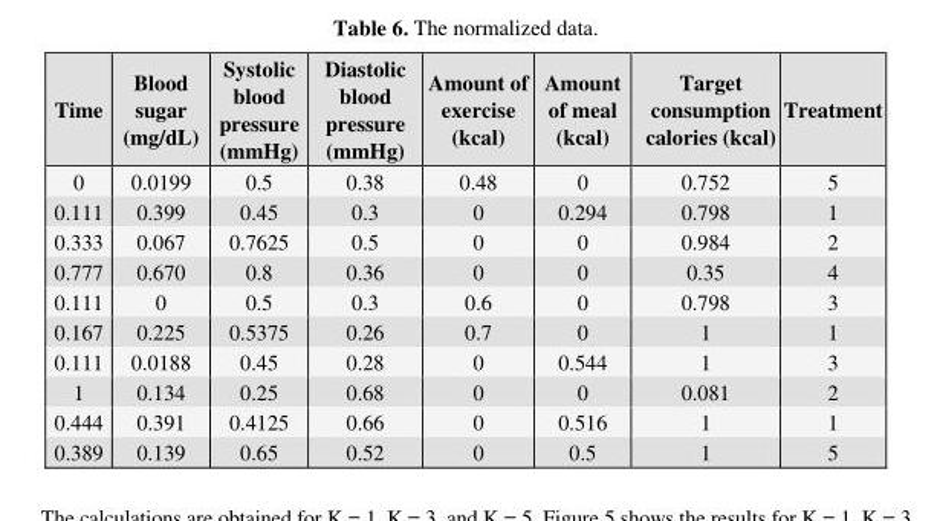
<table><thead><tr><td>Time</td><td>Blood sugar (mg/dL)</td><td>Systolic blood pressure (mmHg)</td><td>Diastolic blood pressure (mmHg)</td><td>Amount of exercise (kcal)</td><td>Amount of meal (kcal)</td><td>Target consumption calories (kcal)</td><td>Treatment</td></tr></thead><tbody><tr><td>0</td><td>0.0199</td><td>0.5</td><td>0.38</td><td>0.48</td><td>0</td><td>0.752</td><td>5</td></tr><tr><td>0.111</td><td>0.399</td><td>0.45</td><td>0.3</td><td>0</td><td>0.294</td><td>0.798</td><td>1</td></tr><tr><td>0.333</td><td>0.067</td><td>0.7625</td><td>0.5</td><td>0</td><td>0</td><td>0.984</td><td>2</td></tr><tr><td>0.777</td><td>0.670</td><td>0.8</td><td>0.36</td><td>0</td><td>0</td><td>0.35</td><td>4</td></tr><tr><td>0.111</td><td>0</td><td>0.5</td><td>0.3</td><td>0.6</td><td>0</td><td>0.798</td><td>3</td></tr><tr><td>0.167</td><td>0.225</td><td>0.5375</td><td>0.26</td><td>0.7</td><td>0</td><td>1</td><td>1</td></tr><tr><td>0.111</td><td>0.0188</td><td>0.45</td><td>0.28</td><td>0</td><td>0.544</td><td>1</td><td>3</td></tr><tr><td>1</td><td>0.134</td><td>0.25</td><td>0.68</td><td>0</td><td>0</td><td>0.081</td><td>2</td></tr><tr><td>0.444</td><td>0.391</td><td>0.4125</td><td>0.66</td><td>0</td><td>0.516</td><td>1</td><td>1</td></tr><tr><td>0.389</td><td>0.139</td><td>0.65</td><td>0.52</td><td>0</td><td>0.5</td><td>1</td><td>5</td></tr></tbody></table>